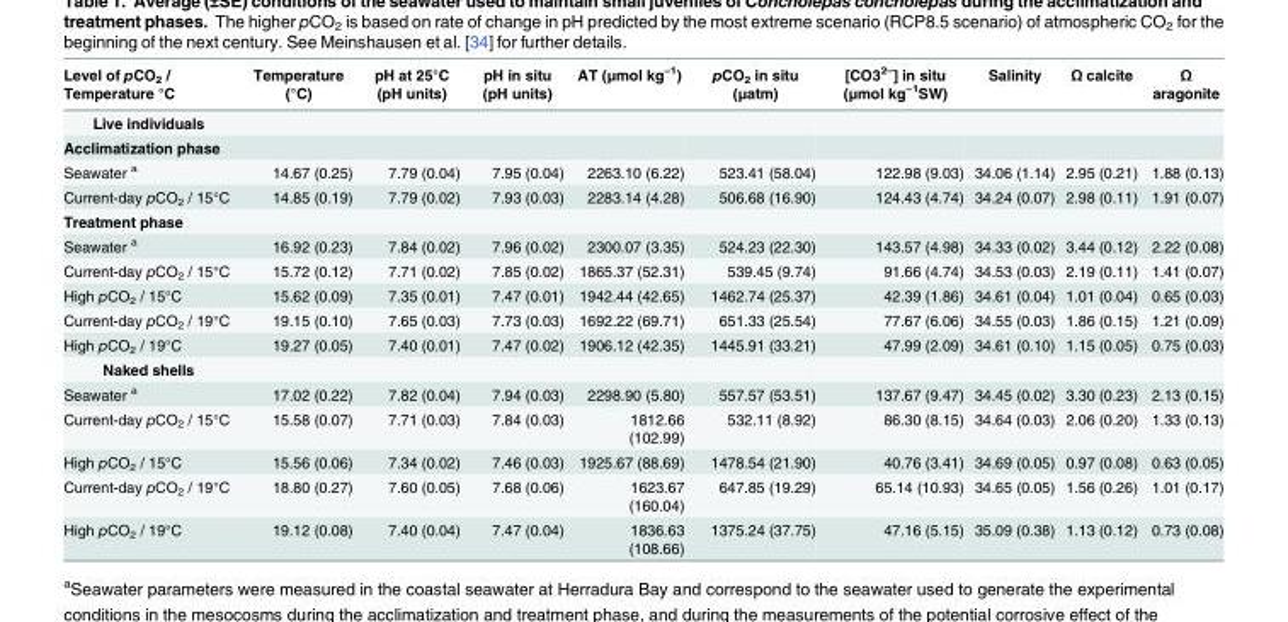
<table><thead><tr><td>Level of pCO<sub>2</sub> / Temperature °C</td><td>Temperature (°C)</td><td>pH at 25°C (pH units)</td><td>pH in situ (pH units)</td><td>AT (μmol kg<sup>−1</sup>)</td><td>pCO<sub>2</sub> in situ (μatm)</td><td>[CO3<sup>2–</sup>] in situ (μmol kg<sup>−1</sup>SW)</td><td>Salinity</td><td>Ω calcite</td><td>Ω aragonite</td></tr></thead><tbody><tr><td colspan="10">Live individuals</td></tr><tr><td colspan="10">Acclimatization phase</td></tr><tr><td>Seawater <sup>a</sup></td><td>14.67 (0.25)</td><td>7.79 (0.04)</td><td>7.95 (0.04)</td><td>2263.10 (6.22)</td><td>523.41 (58.04)</td><td>122.98 (9.03)</td><td>34.06 (1.14)</td><td>2.95 (0.21)</td><td>1.88 (0.13)</td></tr><tr><td>Current-day pCO<sub>2</sub> / 15°C</td><td>14.85 (0.19)</td><td>7.79 (0.02)</td><td>7.93 (0.03)</td><td>2283.14 (4.28)</td><td>506.68 (16.90)</td><td>124.43 (4.74)</td><td>34.24 (0.07)</td><td>2.98 (0.11)</td><td>1.91 (0.07)</td></tr><tr><td colspan="10">Treatment phase</td></tr><tr><td>Seawater <sup>a</sup></td><td>16.92 (0.23)</td><td>7.84 (0.02)</td><td>7.96 (0.02)</td><td>2300.07 (3.35)</td><td>524.23 (22.30)</td><td>143.57 (4.98)</td><td>34.33 (0.02)</td><td>3.44 (0.12)</td><td>2.22 (0.08)</td></tr><tr><td>Current-day pCO<sub>2</sub> / 15°C</td><td>15.72 (0.12)</td><td>7.71 (0.02)</td><td>7.85 (0.02)</td><td>1865.37 (52.31)</td><td>539.45 (9.74)</td><td>91.66 (4.74)</td><td>34.53 (0.03)</td><td>2.19 (0.11)</td><td>1.41 (0.07)</td></tr><tr><td>High pCO<sub>2</sub> / 15°C</td><td>15.62 (0.09)</td><td>7.35 (0.01)</td><td>7.47 (0.01)</td><td>1942.44 (42.65)</td><td>1462.74 (25.37)</td><td>42.39 (1.86)</td><td>34.61 (0.04)</td><td>1.01 (0.04)</td><td>0.65 (0.03)</td></tr><tr><td>Current-day pCO<sub>2</sub> / 19°C</td><td>19.15 (0.10)</td><td>7.65 (0.03)</td><td>7.73 (0.03)</td><td>1692.22 (69.71)</td><td>651.33 (25.54)</td><td>77.67 (6.06)</td><td>34.55 (0.03)</td><td>1.86 (0.15)</td><td>1.21 (0.09)</td></tr><tr><td>High pCO<sub>2</sub> / 19°C</td><td>19.27 (0.05)</td><td>7.40 (0.01)</td><td>7.47 (0.02)</td><td>1906.12 (42.35)</td><td>1445.91 (33.21)</td><td>47.99 (2.09)</td><td>34.61 (0.10)</td><td>1.15 (0.05)</td><td>0.75 (0.03)</td></tr><tr><td colspan="10">Naked shells</td></tr><tr><td>Seawater <sup>a</sup></td><td>17.02 (0.22)</td><td>7.82 (0.04)</td><td>7.94 (0.03)</td><td>2298.90 (5.80)</td><td>557.57 (53.51)</td><td>137.67 (9.47)</td><td>34.45 (0.02)</td><td>3.30 (0.23)</td><td>2.13 (0.15)</td></tr><tr><td>Current-day pCO<sub>2</sub> / 15°C</td><td>15.58 (0.07)</td><td>7.71 (0.03)</td><td>7.84 (0.03)</td><td>1812.66 (102.99)</td><td>532.11 (8.92)</td><td>86.30 (8.15)</td><td>34.64 (0.03)</td><td>2.06 (0.20)</td><td>1.33 (0.13)</td></tr><tr><td>High pCO<sub>2</sub> / 15°C</td><td>15.56 (0.06)</td><td>7.34 (0.02)</td><td>7.46 (0.03)</td><td>1925.67 (88.69)</td><td>1478.54 (21.90)</td><td>40.76 (3.41)</td><td>34.69 (0.05)</td><td>0.97 (0.08)</td><td>0.63 (0.05)</td></tr><tr><td>Current-day pCO<sub>2</sub> / 19°C</td><td>18.80 (0.27)</td><td>7.60 (0.05)</td><td>7.68 (0.06)</td><td>1623.67 (160.04)</td><td>647.85 (19.29)</td><td>65.14 (10.93)</td><td>34.65 (0.05)</td><td>1.56 (0.26)</td><td>1.01 (0.17)</td></tr><tr><td>High pCO<sub>2</sub> / 19°C</td><td>19.12 (0.08)</td><td>7.40 (0.04)</td><td>7.47 (0.04)</td><td>1836.63 (108.66)</td><td>1375.24 (37.75)</td><td>47.16 (5.15)</td><td>35.09 (0.38)</td><td>1.13 (0.12)</td><td>0.73 (0.08)</td></tr></tbody></table>